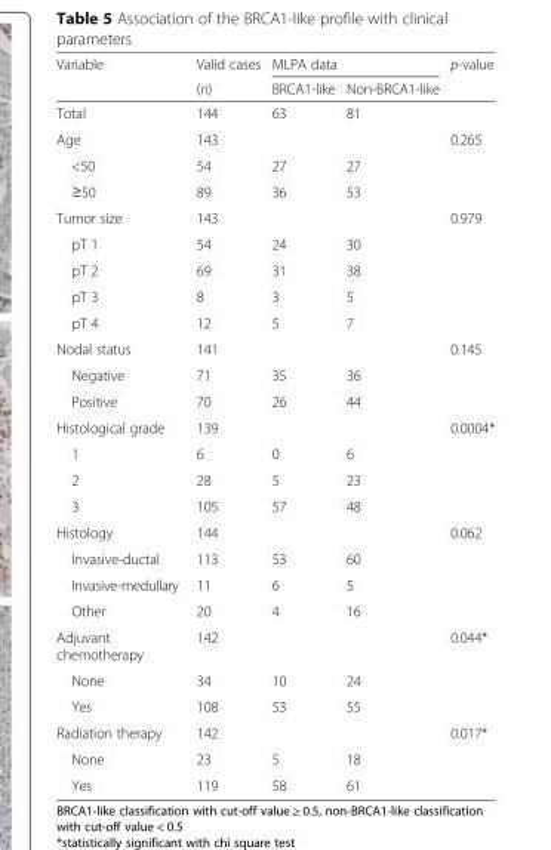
<table><thead><tr><td rowspan="2">Variable</td><td rowspan="2">Valid cases (n)</td><td colspan="2">MLPA data</td><td rowspan="2">p-value</td></tr><tr><td>BRCA1-like</td><td>Non-BRCA1-like</td></tr></thead><tbody><tr><td>Total</td><td>144</td><td>63</td><td>81</td><td></td></tr><tr><td>Age</td><td>143</td><td></td><td></td><td>0.265</td></tr><tr><td>&lt;50</td><td>54</td><td>27</td><td>27</td><td></td></tr><tr><td>≥50</td><td>89</td><td>36</td><td>53</td><td></td></tr><tr><td>Tumor size</td><td>143</td><td></td><td></td><td>0.979</td></tr><tr><td>pT 1</td><td>54</td><td>24</td><td>30</td><td></td></tr><tr><td>pT 2</td><td>69</td><td>31</td><td>38</td><td></td></tr><tr><td>pT 3</td><td>8</td><td>3</td><td>5</td><td></td></tr><tr><td>pT 4</td><td>12</td><td>5</td><td>7</td><td></td></tr><tr><td>Nodal status</td><td>141</td><td></td><td></td><td>0.145</td></tr><tr><td>Negative</td><td>71</td><td>35</td><td>36</td><td></td></tr><tr><td>Positive</td><td>70</td><td>26</td><td>44</td><td></td></tr><tr><td>Histological grade</td><td>139</td><td></td><td></td><td>0.0004*</td></tr><tr><td>1</td><td>6</td><td>0</td><td>6</td><td></td></tr><tr><td>2</td><td>28</td><td>5</td><td>23</td><td></td></tr><tr><td>3</td><td>105</td><td>57</td><td>48</td><td></td></tr><tr><td>Histology</td><td>144</td><td></td><td></td><td>0.062</td></tr><tr><td>Invasive-ductal</td><td>113</td><td>53</td><td>60</td><td></td></tr><tr><td>Invasive-medullary</td><td>11</td><td>6</td><td>5</td><td></td></tr><tr><td>Other</td><td>20</td><td>4</td><td>16</td><td></td></tr><tr><td>Adjuvant chemotherapy</td><td>142</td><td></td><td></td><td>0.044*</td></tr><tr><td>None</td><td>34</td><td>10</td><td>24</td><td></td></tr><tr><td>Yes</td><td>108</td><td>53</td><td>55</td><td></td></tr><tr><td>Radiation therapy</td><td>142</td><td></td><td></td><td>0.017*</td></tr><tr><td>None</td><td>23</td><td>5</td><td>18</td><td></td></tr><tr><td>Yes</td><td>119</td><td>58</td><td>61</td><td></td></tr></tbody></table>